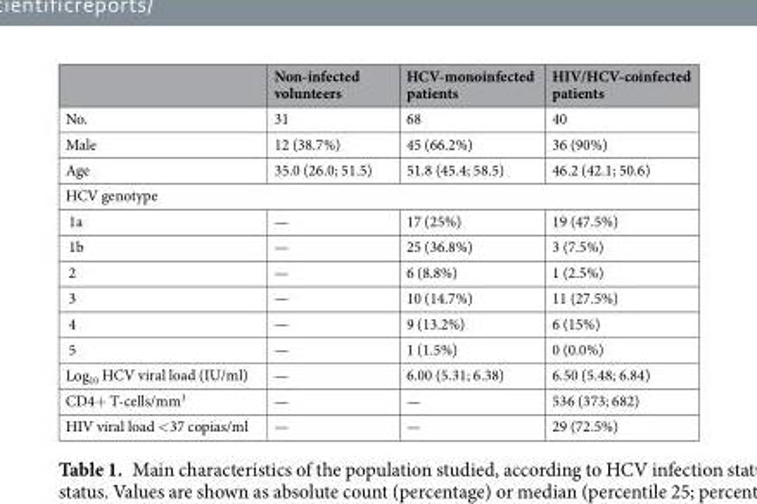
<table><thead><tr><td></td><td>Non-infected volunteers</td><td>HCV-monoinfected patients</td><td>HIV/HCV-coinfected patients</td></tr></thead><tbody><tr><td>No.</td><td>31</td><td>68</td><td>40</td></tr><tr><td>Male</td><td>12 (38.7%)</td><td>45 (66.2%)</td><td>36 (90%)</td></tr><tr><td>Age</td><td>35.0 (26.0; 51.5)</td><td>51.8 (45.4; 58.5)</td><td>46.2 (42.1; 50.6)</td></tr><tr><td colspan="4">HCV genotype</td></tr><tr><td>1a</td><td>—</td><td>17 (25%)</td><td>19 (47.5%)</td></tr><tr><td>1b</td><td>—</td><td>25 (36.8%)</td><td>3 (7.5%)</td></tr><tr><td>2</td><td>—</td><td>6 (8.8%)</td><td>1 (2.5%)</td></tr><tr><td>3</td><td>—</td><td>10 (14.7%)</td><td>11 (27.5%)</td></tr><tr><td>4</td><td>—</td><td>9 (13.2%)</td><td>6 (15%)</td></tr><tr><td>5</td><td>—</td><td>1 (1.5%)</td><td>0 (0.0%)</td></tr><tr><td>Log<sub>10</sub> HCV viral load (IU/ml)</td><td>—</td><td>6.00 (5.31; 6.38)</td><td>6.50 (5.48; 6.84)</td></tr><tr><td>CD4+ T-cells/mm<sup>3</sup></td><td>—</td><td>—</td><td>536 (373; 682)</td></tr><tr><td>HIV viral load &lt;37 copias/ml</td><td>—</td><td>—</td><td>29 (72.5%)</td></tr></tbody></table>